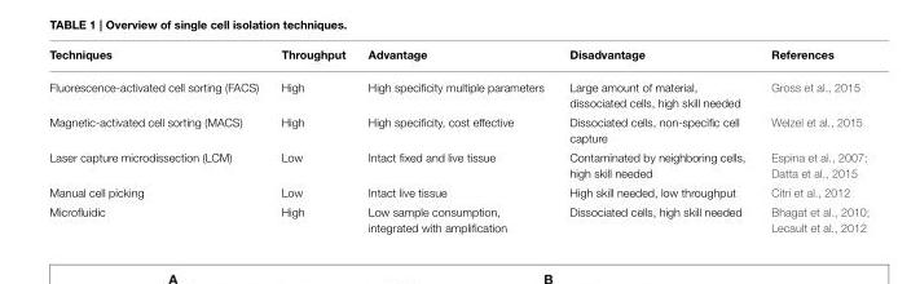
<table><thead><tr><td>Techniques</td><td>Throughput</td><td>Advantage</td><td>Disadvantage</td><td>References</td></tr></thead><tbody><tr><td>Fluorescence-activated cell sorting (FACS)</td><td>High</td><td>High specificity multiple parameters</td><td>Large amount of material, dissociated cells, high skill needed</td><td>Gross et al., 2015</td></tr><tr><td>Magnetic-activated cell sorting (MACS)</td><td>High</td><td>High specificity, cost effective</td><td>Dissociated cells, non-specific cell capture</td><td>Welzel et al., 2015</td></tr><tr><td>Laser capture microdissection (LCM)</td><td>Low</td><td>Intact fixed and live tissue</td><td>Contaminated by neighboring cells, high skill needed</td><td>Espina et al., 2007; Datta et al., 2015</td></tr><tr><td>Manual cell picking</td><td>Low</td><td>Intact live tissue</td><td>High skill needed, low throughput</td><td>Citri et al., 2012</td></tr><tr><td>Microfluidic</td><td>High</td><td>Low sample consumption, integrated with amplification</td><td>Dissociated cells, high skill needed</td><td>Bhagat et al., 2010; Lecault et al., 2012</td></tr></tbody></table>